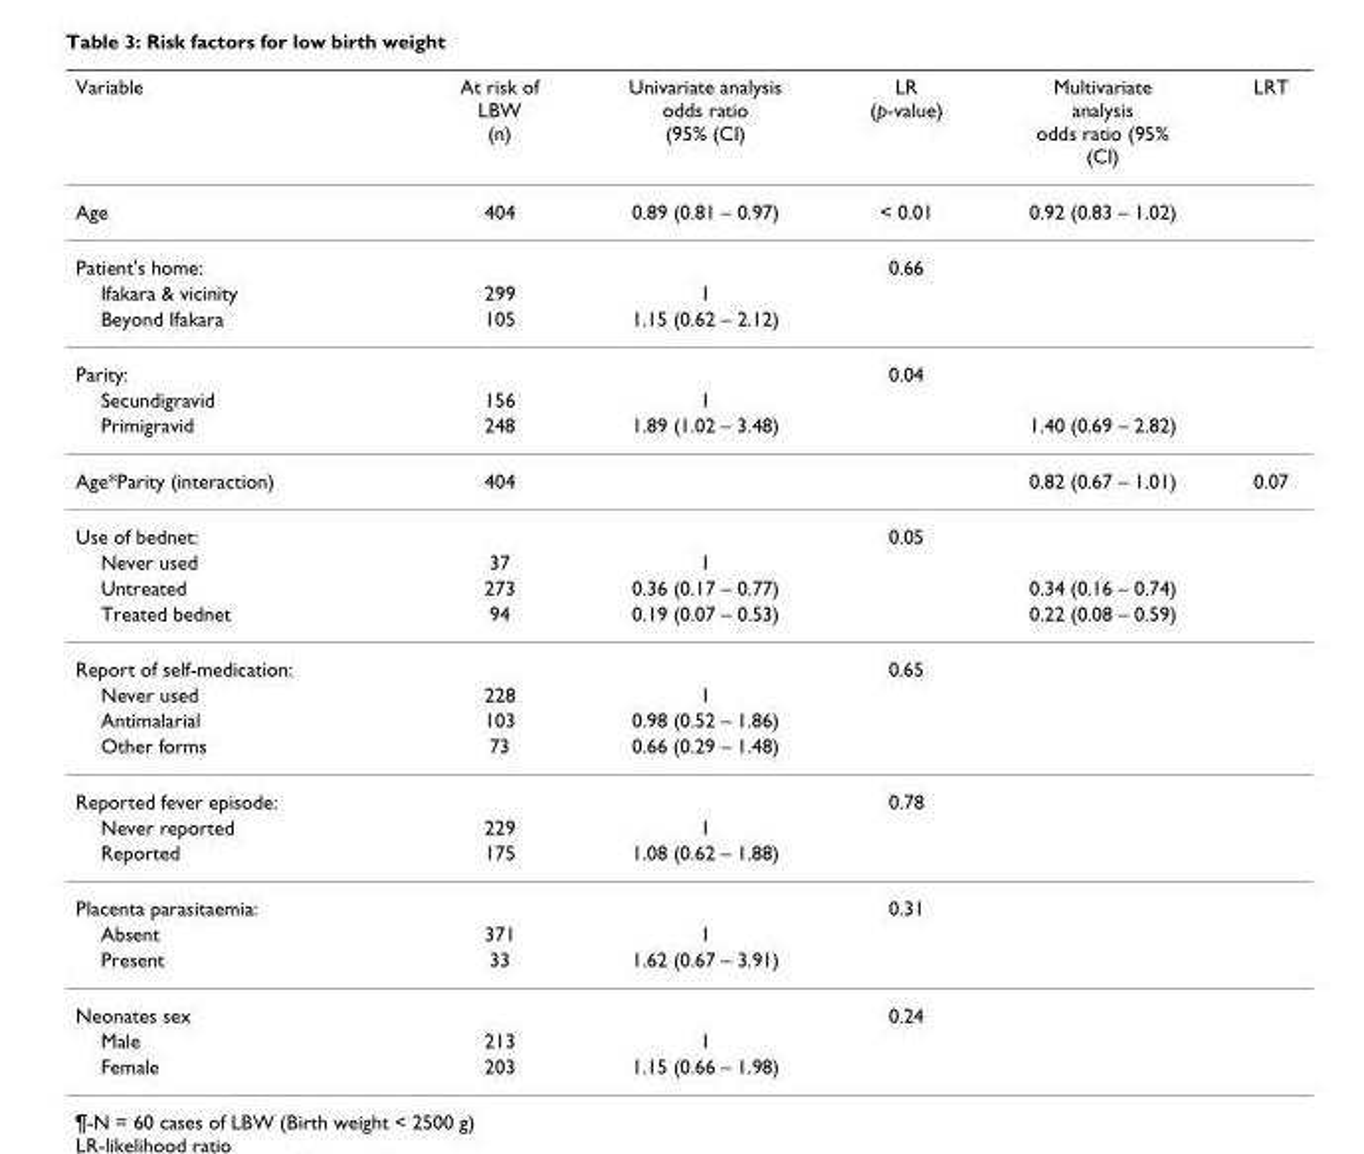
<table><thead><tr><td>Variable</td><td>At risk of LBW (n)</td><td>Univariate analysis odds ratio (95% (CI)</td><td>LR (p-value)</td><td>Multivariate analysis odds ratio (95% (CI)</td><td>LRT</td></tr></thead><tbody><tr><td>Age</td><td>404</td><td>0.89 (0.81 – 0.97)</td><td>&lt; 0.01</td><td>0.92 (0.83 – 1.02)</td><td></td></tr><tr><td>Patient&#x27;s home:</td><td></td><td></td><td>0.66</td><td></td><td></td></tr><tr><td>Ifakara &amp; vicinity</td><td>299</td><td>1</td><td></td><td></td><td></td></tr><tr><td>Beyond Ifakara</td><td>105</td><td>1.15 (0.62 – 2.12)</td><td></td><td></td><td></td></tr><tr><td>Parity:</td><td></td><td></td><td>0.04</td><td></td><td></td></tr><tr><td>Secundigravid</td><td>156</td><td>1</td><td></td><td></td><td></td></tr><tr><td>Primigravid</td><td>248</td><td>1.89 (1.02 – 3.48)</td><td></td><td>1.40 (0.69 – 2.82)</td><td></td></tr><tr><td>Age*Parity (interaction)</td><td>404</td><td></td><td></td><td>0.82 (0.67 – 1.01)</td><td>0.07</td></tr><tr><td>Use of bednet:</td><td></td><td></td><td>0.05</td><td></td><td></td></tr><tr><td>Never used</td><td>37</td><td>1</td><td></td><td></td><td></td></tr><tr><td>Untreated</td><td>273</td><td>0.36 (0.17 – 0.77)</td><td></td><td>0.34 (0.16 – 0.74)</td><td></td></tr><tr><td>Treated bednet</td><td>94</td><td>0.19 (0.07 – 0.53)</td><td></td><td>0.22 (0.08 – 0.59)</td><td></td></tr><tr><td>Report of self-medication:</td><td></td><td></td><td>0.65</td><td></td><td></td></tr><tr><td>Never used</td><td>228</td><td>1</td><td></td><td></td><td></td></tr><tr><td>Antimalarial</td><td>103</td><td>0.98 (0.52 – 1.86)</td><td></td><td></td><td></td></tr><tr><td>Other forms</td><td>73</td><td>0.66 (0.29 – 1.48)</td><td></td><td></td><td></td></tr><tr><td>Reported fever episode:</td><td></td><td></td><td>0.78</td><td></td><td></td></tr><tr><td>Never reported</td><td>229</td><td>1</td><td></td><td></td><td></td></tr><tr><td>Reported</td><td>175</td><td>1.08 (0.62 – 1.88)</td><td></td><td></td><td></td></tr><tr><td>Placenta parasitaemia:</td><td></td><td></td><td>0.31</td><td></td><td></td></tr><tr><td>Absent</td><td>371</td><td>1</td><td></td><td></td><td></td></tr><tr><td>Present</td><td>33</td><td>1.62 (0.67 – 3.91)</td><td></td><td></td><td></td></tr><tr><td>Neonates sex</td><td></td><td></td><td>0.24</td><td></td><td></td></tr><tr><td>Male</td><td>213</td><td>1</td><td></td><td></td><td></td></tr><tr><td>Female</td><td>203</td><td>1.15 (0.66 – 1.98)</td><td></td><td></td><td></td></tr></tbody></table>